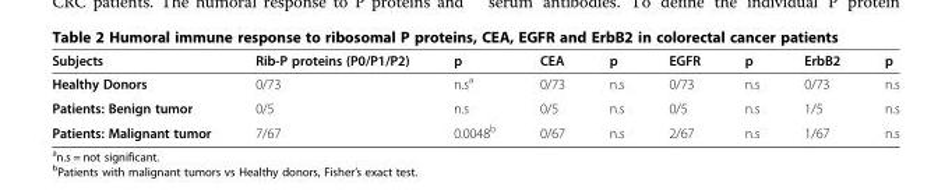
<table><thead><tr><td>Subjects</td><td>Rib-P proteins (P0/P1/P2)</td><td>p</td><td>CEA</td><td>p</td><td>EGFR</td><td>p</td><td>ErbB2</td><td>p</td></tr></thead><tbody><tr><td>Healthy Donors</td><td>0/73</td><td>n.s<sup>a</sup></td><td>0/73</td><td>n.s</td><td>0/73</td><td>n.s</td><td>0/73</td><td>n.s</td></tr><tr><td>Patients: Benign tumor</td><td>0/5</td><td>n.s</td><td>0/5</td><td>n.s</td><td>0/5</td><td>n.s</td><td>1/5</td><td>n.s</td></tr><tr><td>Patients: Malignant tumor</td><td>7/67</td><td>0.0048<sup>b</sup></td><td>0/67</td><td>n.s</td><td>2/67</td><td>n.s</td><td>1/67</td><td>n.s</td></tr></tbody></table>